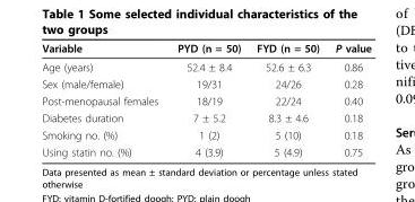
<table><thead><tr><td>Variable</td><td>PYD (n = 50)</td><td>FYD (n = 50)</td><td>P value</td></tr></thead><tbody><tr><td>Age (years)</td><td>52.4 ± 8.4</td><td>52.6 ± 6.3</td><td>0.86</td></tr><tr><td>Sex (male/female)</td><td>19/31</td><td>24/26</td><td>0.28</td></tr><tr><td>Post-menopausal females</td><td>18/19</td><td>22/24</td><td>0.40</td></tr><tr><td>Diabetes duration</td><td>7 ± 5.2</td><td>8.3 ± 4.6</td><td>0.18</td></tr><tr><td>Smoking no. (%)</td><td>1 (2)</td><td>5 (10)</td><td>0.18</td></tr><tr><td>Using statin no. (%)</td><td>4 (3.9)</td><td>5 (4.9)</td><td>0.75</td></tr></tbody></table>